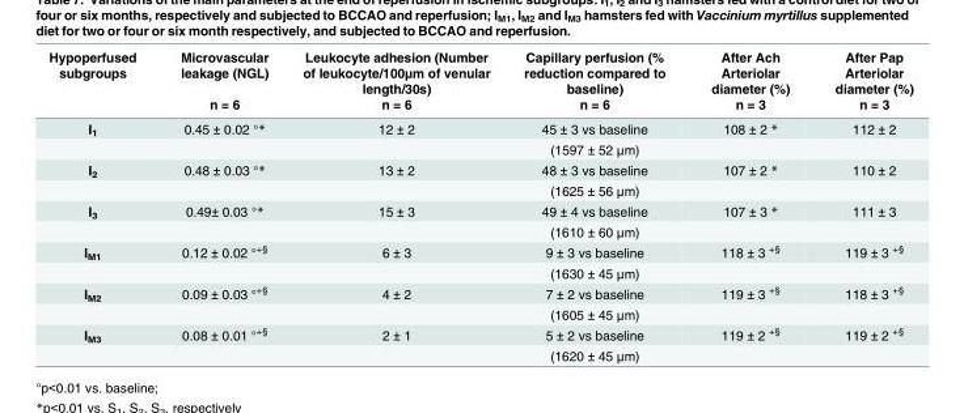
<table><thead><tr><td rowspan="2">Hypoperfused subgroups</td><td rowspan="2">Microvascular leakage (NGL) n = 6</td><td rowspan="2">Leukocyte adhesion (Number of leukocyte/100μm of venular length/30s) n = 6</td><td rowspan="2">Capillary perfusion (% reduction compared to baseline) n = 6</td><td rowspan="2">After Ach Arteriolar diameter (%) n = 3</td><td rowspan="2">After Pap Arteriolar diameter (%) n = 3</td></tr><tr></tr></thead><tbody><tr><td rowspan="2">I<sub>1</sub></td><td>0.45 ± 0.02 °*</td><td>12 ± 2</td><td>45 ± 3 vs baseline</td><td>108 ± 2 *</td><td>112 ± 2</td></tr><tr><td></td><td></td><td>(1597 ± 52 μm)</td><td></td><td></td></tr><tr><td rowspan="2">I<sub>2</sub></td><td>0.48 ± 0.03 °*</td><td>13 ± 2</td><td>48 ± 3 vs baseline</td><td>107 ± 2 *</td><td>110 ± 2</td></tr><tr><td></td><td></td><td>(1625 ± 56 μm)</td><td></td><td></td></tr><tr><td rowspan="2">I<sub>3</sub></td><td>0.49± 0.03 °*</td><td>15 ± 3</td><td>49 ± 4 vs baseline</td><td>107 ± 3 *</td><td>111 ± 3</td></tr><tr><td></td><td></td><td>(1610 ± 60 μm)</td><td></td><td></td></tr><tr><td rowspan="2">I<sub>M1</sub></td><td>0.12 ± 0.02 °<sup>+§</sup></td><td>6 ± 3</td><td>9 ± 3 vs baseline</td><td>118 ± 3 <sup>+§</sup></td><td>119 ± 3 <sup>+§</sup></td></tr><tr><td></td><td></td><td>(1630 ± 45 μm)</td><td></td><td></td></tr><tr><td rowspan="2">I<sub>M2</sub></td><td>0.09 ± 0.03 °<sup>+§</sup></td><td>4 ± 2</td><td>7 ± 2 vs baseline</td><td>119 ± 3 <sup>+§</sup></td><td>118 ± 3 <sup>+§</sup></td></tr><tr><td></td><td></td><td>(1605 ± 45 μm)</td><td></td><td></td></tr><tr><td rowspan="2">I<sub>M3</sub></td><td>0.08 ± 0.01 °<sup>+§</sup></td><td>2 ± 1</td><td>5 ± 2 vs baseline</td><td>119 ± 2 <sup>+§</sup></td><td>119 ± 2 <sup>+§</sup></td></tr><tr><td></td><td></td><td>(1620 ± 45 μm)</td><td></td><td></td></tr></tbody></table>